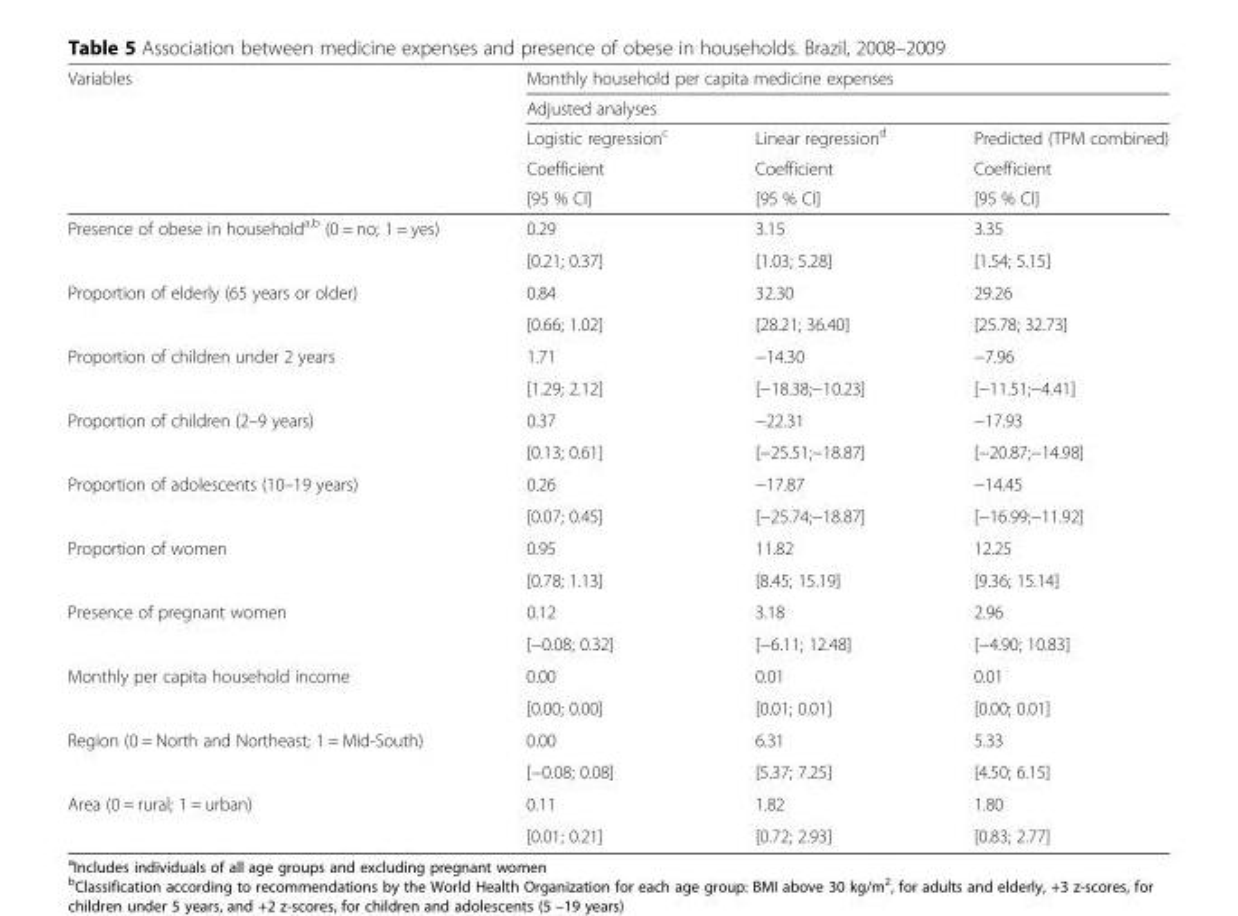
<table><thead><tr><td rowspan="5">Variables</td><td rowspan="2" colspan="3">Monthly household per capita medicine expenses Adjusted analyses</td></tr><tr></tr><tr><td rowspan="3">Logistic regression<sup>c</sup> Coefficient [95 % CI]</td><td rowspan="3">Linear regression<sup>d</sup> Coefficient [95 % CI]</td><td rowspan="3">Predicted (TPM combined) Coefficient [95 % CI]</td></tr><tr></tr><tr></tr></thead><tbody><tr><td rowspan="2">Presence of obese in household<sup>a,b</sup> (0 = no; 1 = yes)</td><td>0.29</td><td>3.15</td><td>3.35</td></tr><tr><td>[0.21; 0.37]</td><td>[1.03; 5.28]</td><td>[1.54; 5.15]</td></tr><tr><td rowspan="2">Proportion of elderly (65 years or older)</td><td>0.84</td><td>32.30</td><td>29.26</td></tr><tr><td>[0.66; 1.02]</td><td>[28.21; 36.40]</td><td>[25.78; 32.73]</td></tr><tr><td rowspan="2">Proportion of children under 2 years</td><td>1.71</td><td>−14.30</td><td>−7.96</td></tr><tr><td>[1.29; 2.12]</td><td>[−18.38;−10.23]</td><td>[−11.51;−4.41]</td></tr><tr><td rowspan="2">Proportion of children (2–9 years)</td><td>0.37</td><td>−22.31</td><td>−17.93</td></tr><tr><td>[0.13; 0.61]</td><td>[−25.51;−18.87]</td><td>[−20.87;−14.98]</td></tr><tr><td rowspan="2">Proportion of adolescents (10–19 years)</td><td>0.26</td><td>−17.87</td><td>−14.45</td></tr><tr><td>[0.07; 0.45]</td><td>[−25.74;−18.87]</td><td>[−16.99;−11.92]</td></tr><tr><td rowspan="2">Proportion of women</td><td>0.95</td><td>11.82</td><td>12.25</td></tr><tr><td>[0.78; 1.13]</td><td>[8.45; 15.19]</td><td>[9.36; 15.14]</td></tr><tr><td rowspan="2">Presence of pregnant women</td><td>0.12</td><td>3.18</td><td>2.96</td></tr><tr><td>[−0.08; 0.32]</td><td>[−6.11; 12.48]</td><td>[−4.90; 10.83]</td></tr><tr><td rowspan="2">Monthly per capita household income</td><td>0.00</td><td>0.01</td><td>0.01</td></tr><tr><td>[0.00; 0.00]</td><td>[0.01; 0.01]</td><td>[0.00; 0.01]</td></tr><tr><td rowspan="2">Region (0 = North and Northeast; 1 = Mid-South)</td><td>0.00</td><td>6.31</td><td>5.33</td></tr><tr><td>[−0.08; 0.08]</td><td>[5.37; 7.25]</td><td>[4.50; 6.15]</td></tr><tr><td rowspan="2">Area (0 = rural; 1 = urban)</td><td>0.11</td><td>1.82</td><td>1.80</td></tr><tr><td>[0.01; 0.21]</td><td>[0.72; 2.93]</td><td>[0.83; 2.77]</td></tr></tbody></table>